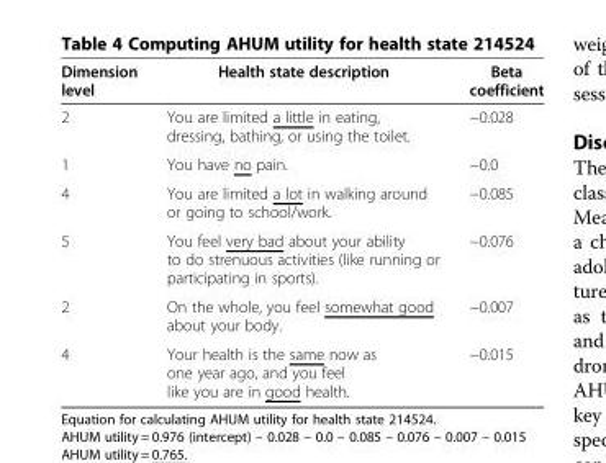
<table><thead><tr><td>Dimension level</td><td>Health state description</td><td>Beta coefficient</td></tr></thead><tbody><tr><td>2</td><td>You are limited a little in eating, dressing, bathing, or using the toilet.</td><td>−0.028</td></tr><tr><td>1</td><td>You have no pain.</td><td>−0.0</td></tr><tr><td>4</td><td>You are limited a lot in walking around or going to school/work.</td><td>−0.085</td></tr><tr><td>5</td><td>You feel very bad about your ability to do strenuous activities (like running or participating in sports).</td><td>−0.076</td></tr><tr><td>2</td><td>On the whole, you feel somewhat good about your body.</td><td>−0.007</td></tr><tr><td>4</td><td>Your health is the same now as one year ago, and you feel like you are in good health.</td><td>−0.015</td></tr></tbody></table>